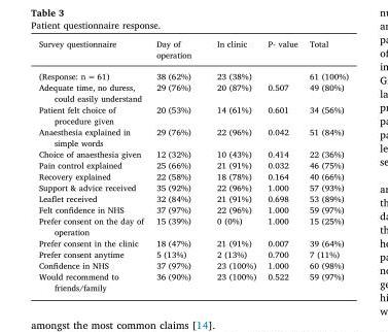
<table><thead><tr><td>Survey questionnaire</td><td>Day of operation</td><td>In clinic</td><td>P- value</td><td>Total</td></tr></thead><tbody><tr><td>(Response: n = 61)</td><td>38 (62%)</td><td>23 (38%)</td><td></td><td>61 (100%)</td></tr><tr><td>Adequate time, no duress, could easily understand</td><td>29 (76%)</td><td>20 (87%)</td><td>0.507</td><td>49 (80%)</td></tr><tr><td>Patient felt choice of procedure given</td><td>20 (53%)</td><td>14 (61%)</td><td>0.601</td><td>34 (56%)</td></tr><tr><td>Anaesthesia explained in simple words</td><td>29 (76%)</td><td>22 (96%)</td><td>0.042</td><td>51 (84%)</td></tr><tr><td>Choice of anaesthesia given</td><td>12 (32%)</td><td>10 (43%)</td><td>0.414</td><td>22 (36%)</td></tr><tr><td>Pain control explained</td><td>25 (66%)</td><td>21 (91%)</td><td>0.032</td><td>46 (75%)</td></tr><tr><td>Recovery explained</td><td>22 (58%)</td><td>18 (78%)</td><td>0.164</td><td>40 (66%)</td></tr><tr><td>Support &amp; advice received</td><td>35 (92%)</td><td>22 (96%)</td><td>1.000</td><td>57 (93%)</td></tr><tr><td>Leaflet received</td><td>32 (84%)</td><td>21 (91%)</td><td>0.698</td><td>53 (89%)</td></tr><tr><td>Felt confidence in NHS</td><td>37 (97%)</td><td>22 (96%)</td><td>1.000</td><td>59 (97%)</td></tr><tr><td>Prefer consent on the day of operation</td><td>15 (39%)</td><td>0 (0%)</td><td>1.000</td><td>15 (25%)</td></tr><tr><td>Prefer consent in the clinic</td><td>18 (47%)</td><td>21 (91%)</td><td>0.007</td><td>39 (64%)</td></tr><tr><td>Prefer consent anytime</td><td>5 (13%)</td><td>2 (13%)</td><td>0.700</td><td>7 (11%)</td></tr><tr><td>Confidence in NHS</td><td>37 (97%)</td><td>23 (100%)</td><td>1.000</td><td>60 (98%)</td></tr><tr><td>Would recommend to friends/family</td><td>36 (90%)</td><td>23 (100%)</td><td>0.522</td><td>59 (97%)</td></tr></tbody></table>